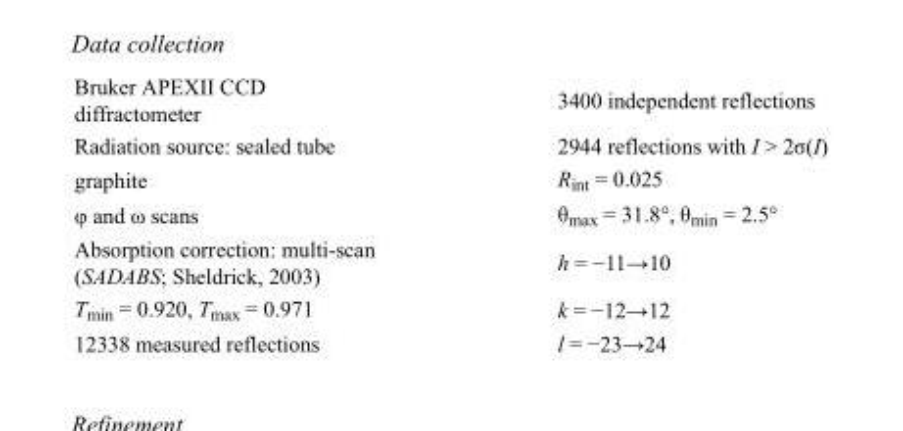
<table><tbody><tr><td>Bruker APEXII CCD diffractometer</td><td>3400 independent reflections</td></tr><tr><td>Radiation source: sealed tube</td><td>2944 reflections with I &gt; 2σ(I)</td></tr><tr><td>graphite</td><td>R<sub>int</sub> = 0.025</td></tr><tr><td>φ and ω scans</td><td>θ<sub>max</sub> = 31.8°, θ<sub>min</sub> = 2.5°</td></tr><tr><td>Absorption correction: multi-scan (SADABS; Sheldrick, 2003)</td><td>h = −11→10</td></tr><tr><td>T<sub>min</sub> = 0.920, T<sub>max</sub> = 0.971</td><td>k = −12→12</td></tr><tr><td>12338 measured reflections</td><td>l = −23→24</td></tr></tbody></table>